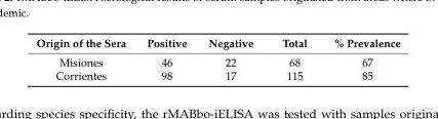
<table><thead><tr><td>Origin of the Sera</td><td>Positive</td><td>Negative</td><td>Total</td><td>% Prevalence</td></tr></thead><tbody><tr><td>Misiones</td><td>46</td><td>22</td><td>68</td><td>67</td></tr><tr><td>Corrientes</td><td>98</td><td>17</td><td>115</td><td>85</td></tr></tbody></table>